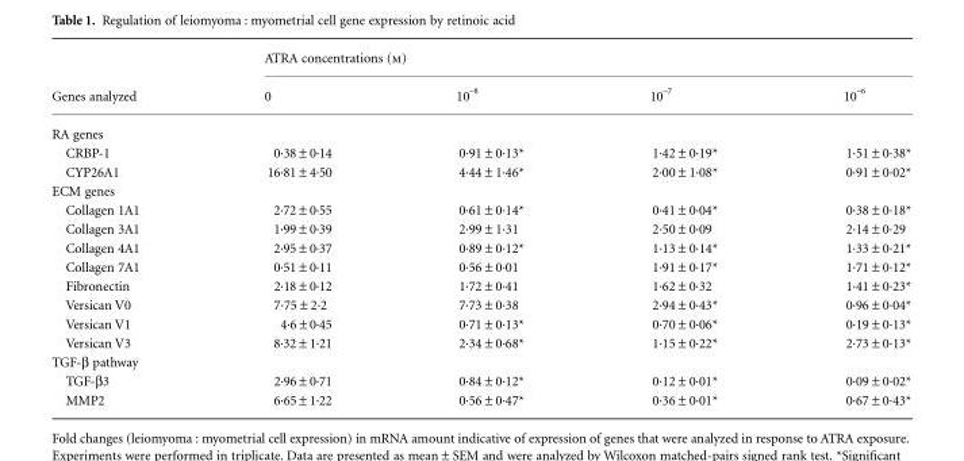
<table><thead><tr><td rowspan="2">Genes analyzed</td><td colspan="4">ATRA concentrations (m)</td></tr><tr><td>0</td><td>10<sup>–8</sup></td><td>10<sup>–7</sup></td><td>10<sup>–6</sup></td></tr></thead><tbody><tr><td colspan="5">RA genes</td></tr><tr><td>CRBP-1</td><td>0·38 ± 0·14</td><td>0·91 ± 0·13*</td><td>1·42 ± 0·19*</td><td>1·51 ± 0·38*</td></tr><tr><td>CYP26A1</td><td>16·81 ± 4·50</td><td>4·44 ± 1·46*</td><td>2·00 ± 1·08*</td><td>0·91 ± 0·02*</td></tr><tr><td colspan="5">ECM genes</td></tr><tr><td>Collagen 1A1</td><td>2·72 ± 0·55</td><td>0·61 ± 0·14*</td><td>0·41 ± 0·04*</td><td>0·38 ± 0·18*</td></tr><tr><td>Collagen 3A1</td><td>1·99 ± 0·39</td><td>2·99 ± 1·31</td><td>2·50 ± 0·09</td><td>2·14 ± 0·29</td></tr><tr><td>Collagen 4A1</td><td>2·95 ± 0·37</td><td>0·89 ± 0·12*</td><td>1·13 ± 0·14*</td><td>1·33 ± 0·21*</td></tr><tr><td>Collagen 7A1</td><td>0·51 ± 0·11</td><td>0·56 ± 0·01</td><td>1·91 ± 0·17*</td><td>1·71 ± 0·12*</td></tr><tr><td>Fibronectin</td><td>2·18 ± 0·12</td><td>1·72 ± 0·41</td><td>1·62 ± 0·32</td><td>1·41 ± 0·23*</td></tr><tr><td>Versican V0</td><td>7·75 ± 2·2</td><td>7·73 ± 0·38</td><td>2·94 ± 0·43*</td><td>0·96 ± 0·04*</td></tr><tr><td>Versican V1</td><td>4·6 ± 0·45</td><td>0·71 ± 0·13*</td><td>0·70 ± 0·06*</td><td>0·19 ± 0·13*</td></tr><tr><td>Versican V3</td><td>8·32 ± 1·21</td><td>2·34 ± 0·68*</td><td>1·15 ± 0·22*</td><td>2·73 ± 0·13*</td></tr><tr><td colspan="5">TGF-β pathway</td></tr><tr><td>TGF-β3</td><td>2·96 ± 0·71</td><td>0·84 ± 0·12*</td><td>0·12 ± 0·01*</td><td>0·09 ± 0·02*</td></tr><tr><td>MMP2</td><td>6·65 ± 1·22</td><td>0·56 ± 0·47*</td><td>0·36 ± 0·01*</td><td>0·67 ± 0·43*</td></tr></tbody></table>